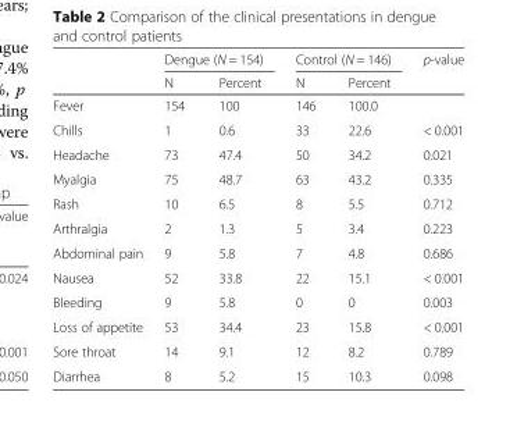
<table><thead><tr><td rowspan="2"></td><td colspan="2">Dengue (N = 154)</td><td colspan="2">Control (N = 146)</td><td rowspan="2">p-value</td></tr><tr><td>N</td><td>Percent</td><td>N</td><td>Percent</td></tr></thead><tbody><tr><td>Fever</td><td>154</td><td>100</td><td>146</td><td>100.0</td><td></td></tr><tr><td>Chills</td><td>1</td><td>0.6</td><td>33</td><td>22.6</td><td>&lt; 0.001</td></tr><tr><td>Headache</td><td>73</td><td>47.4</td><td>50</td><td>34.2</td><td>0.021</td></tr><tr><td>Myalgia</td><td>75</td><td>48.7</td><td>63</td><td>43.2</td><td>0.335</td></tr><tr><td>Rash</td><td>10</td><td>6.5</td><td>8</td><td>5.5</td><td>0.712</td></tr><tr><td>Arthralgia</td><td>2</td><td>1.3</td><td>5</td><td>3.4</td><td>0.223</td></tr><tr><td>Abdominal pain</td><td>9</td><td>5.8</td><td>7</td><td>4.8</td><td>0.686</td></tr><tr><td>Nausea</td><td>52</td><td>33.8</td><td>22</td><td>15.1</td><td>&lt; 0.001</td></tr><tr><td>Bleeding</td><td>9</td><td>5.8</td><td>0</td><td>0</td><td>0.003</td></tr><tr><td>Loss of appetite</td><td>53</td><td>34.4</td><td>23</td><td>15.8</td><td>&lt; 0.001</td></tr><tr><td>Sore throat</td><td>14</td><td>9.1</td><td>12</td><td>8.2</td><td>0.789</td></tr><tr><td>Diarrhea</td><td>8</td><td>5.2</td><td>15</td><td>10.3</td><td>0.098</td></tr></tbody></table>